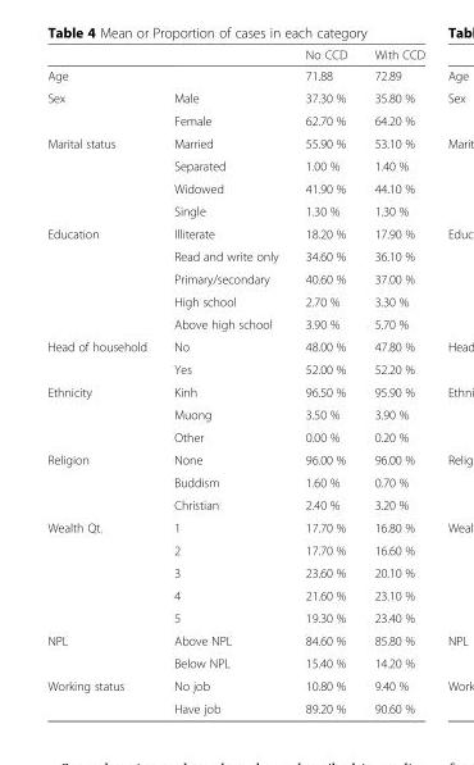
<table><thead><tr><td></td><td></td><td>No CCD</td><td>With CCD</td></tr></thead><tbody><tr><td>Age</td><td></td><td>71.88</td><td>72.89</td></tr><tr><td rowspan="2">Sex</td><td>Male</td><td>37.30 %</td><td>35.80 %</td></tr><tr><td>Female</td><td>62.70 %</td><td>64.20 %</td></tr><tr><td rowspan="4">Marital status</td><td>Married</td><td>55.90 %</td><td>53.10 %</td></tr><tr><td>Separated</td><td>1.00 %</td><td>1.40 %</td></tr><tr><td>Widowed</td><td>41.90 %</td><td>44.10 %</td></tr><tr><td>Single</td><td>1.30 %</td><td>1.30 %</td></tr><tr><td rowspan="5">Education</td><td>Illiterate</td><td>18.20 %</td><td>17.90 %</td></tr><tr><td>Read and write only</td><td>34.60 %</td><td>36.10 %</td></tr><tr><td>Primary/secondary</td><td>40.60 %</td><td>37.00 %</td></tr><tr><td>High school</td><td>2.70 %</td><td>3.30 %</td></tr><tr><td>Above high school</td><td>3.90 %</td><td>5.70 %</td></tr><tr><td rowspan="2">Head of household</td><td>No</td><td>48.00 %</td><td>47.80 %</td></tr><tr><td>Yes</td><td>52.00 %</td><td>52.20 %</td></tr><tr><td rowspan="3">Ethnicity</td><td>Kinh</td><td>96.50 %</td><td>95.90 %</td></tr><tr><td>Muong</td><td>3.50 %</td><td>3.90 %</td></tr><tr><td>Other</td><td>0.00 %</td><td>0.20 %</td></tr><tr><td rowspan="3">Religion</td><td>None</td><td>96.00 %</td><td>96.00 %</td></tr><tr><td>Buddism</td><td>1.60 %</td><td>0.70 %</td></tr><tr><td>Christian</td><td>2.40 %</td><td>3.20 %</td></tr><tr><td rowspan="5">Wealth Qt.</td><td>1</td><td>17.70 %</td><td>16.80 %</td></tr><tr><td>2</td><td>17.70 %</td><td>16.60 %</td></tr><tr><td>3</td><td>23.60 %</td><td>20.10 %</td></tr><tr><td>4</td><td>21.60 %</td><td>23.10 %</td></tr><tr><td>5</td><td>19.30 %</td><td>23.40 %</td></tr><tr><td rowspan="2">NPL</td><td>Above NPL</td><td>84.60 %</td><td>85.80 %</td></tr><tr><td>Below NPL</td><td>15.40 %</td><td>14.20 %</td></tr><tr><td rowspan="2">Working status</td><td>No job</td><td>10.80 %</td><td>9.40 %</td></tr><tr><td>Have job</td><td>89.20 %</td><td>90.60 %</td></tr></tbody></table>